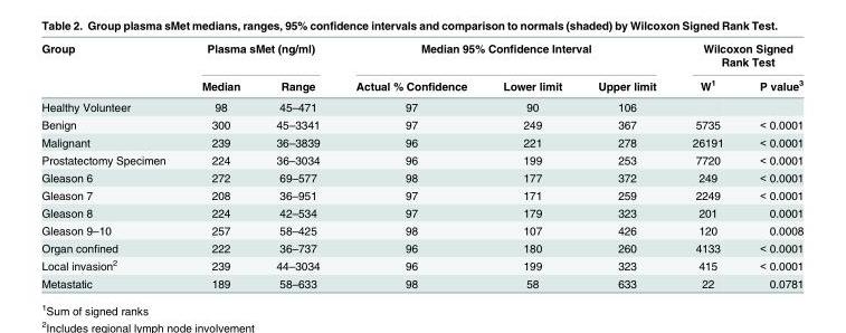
<table><thead><tr><td rowspan="2">Group</td><td colspan="2">Plasma sMet (ng/ml)</td><td colspan="3">Median 95% Confidence Interval</td><td colspan="2">Wilcoxon Signed Rank Test</td></tr><tr><td>Median</td><td>Range</td><td>Actual % Confidence</td><td>Lower limit</td><td>Upper limit</td><td>W<sup>1</sup></td><td>P value<sup>3</sup></td></tr></thead><tbody><tr><td>Healthy Volunteer</td><td>98</td><td>45–471</td><td>97</td><td>90</td><td>106</td><td></td><td></td></tr><tr><td>Benign</td><td>300</td><td>45–3341</td><td>97</td><td>249</td><td>367</td><td>5735</td><td>&lt; 0.0001</td></tr><tr><td>Malignant</td><td>239</td><td>36–3839</td><td>96</td><td>221</td><td>278</td><td>26191</td><td>&lt; 0.0001</td></tr><tr><td>Prostatectomy Specimen</td><td>224</td><td>36–3034</td><td>96</td><td>199</td><td>253</td><td>7720</td><td>&lt; 0.0001</td></tr><tr><td>Gleason 6</td><td>272</td><td>69–577</td><td>98</td><td>177</td><td>372</td><td>249</td><td>&lt; 0.0001</td></tr><tr><td>Gleason 7</td><td>208</td><td>36–951</td><td>97</td><td>171</td><td>259</td><td>2249</td><td>&lt; 0.0001</td></tr><tr><td>Gleason 8</td><td>224</td><td>42–534</td><td>97</td><td>179</td><td>323</td><td>201</td><td>0.0001</td></tr><tr><td>Gleason 9–10</td><td>257</td><td>58–425</td><td>98</td><td>107</td><td>426</td><td>120</td><td>0.0008</td></tr><tr><td>Organ confined</td><td>222</td><td>36–737</td><td>96</td><td>180</td><td>260</td><td>4133</td><td>&lt; 0.0001</td></tr><tr><td>Local invasion<sup>2</sup></td><td>239</td><td>44–3034</td><td>96</td><td>199</td><td>323</td><td>415</td><td>&lt; 0.0001</td></tr><tr><td>Metastatic</td><td>189</td><td>58–633</td><td>98</td><td>58</td><td>633</td><td>22</td><td>0.0781</td></tr></tbody></table>